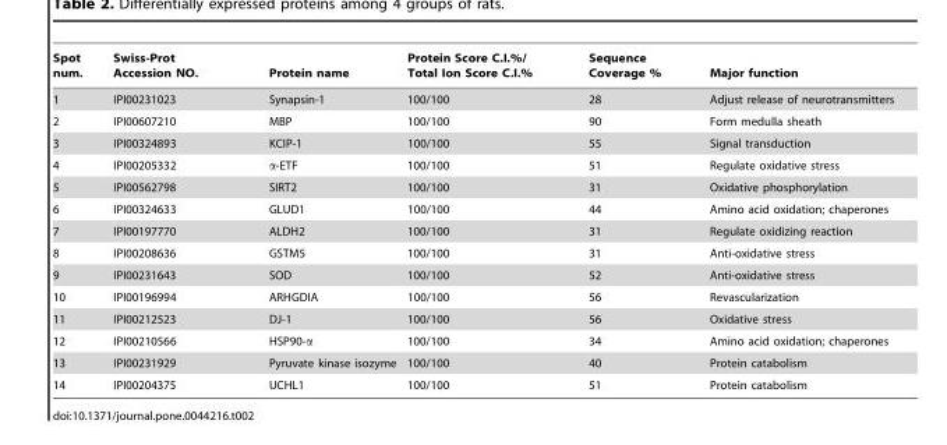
<table><thead><tr><td>Spot num.</td><td>Swiss-Prot Accession NO.</td><td>Protein name</td><td>Protein Score C.I.%/ Total Ion Score C.I.%</td><td>Sequence Coverage %</td><td>Major function</td></tr></thead><tbody><tr><td>1</td><td>IPI00231023</td><td>Synapsin-1</td><td>100/100</td><td>28</td><td>Adjust release of neurotransmitters</td></tr><tr><td>2</td><td>IPI00607210</td><td>MBP</td><td>100/100</td><td>90</td><td>Form medulla sheath</td></tr><tr><td>3</td><td>IPI00324893</td><td>KCIP-1</td><td>100/100</td><td>55</td><td>Signal transduction</td></tr><tr><td>4</td><td>IPI00205332</td><td>α-ETF</td><td>100/100</td><td>51</td><td>Regulate oxidative stress</td></tr><tr><td>5</td><td>IPI00562798</td><td>SIRT2</td><td>100/100</td><td>31</td><td>Oxidative phosphorylation</td></tr><tr><td>6</td><td>IPI00324633</td><td>GLUD1</td><td>100/100</td><td>44</td><td>Amino acid oxidation; chaperones</td></tr><tr><td>7</td><td>IPI00197770</td><td>ALDH2</td><td>100/100</td><td>31</td><td>Regulate oxidizing reaction</td></tr><tr><td>8</td><td>IPI00208636</td><td>GSTM5</td><td>100/100</td><td>31</td><td>Anti-oxidative stress</td></tr><tr><td>9</td><td>IPI00231643</td><td>SOD</td><td>100/100</td><td>52</td><td>Anti-oxidative stress</td></tr><tr><td>10</td><td>IPI00196994</td><td>ARHGDIA</td><td>100/100</td><td>56</td><td>Revascularization</td></tr><tr><td>11</td><td>IPI00212523</td><td>DJ-1</td><td>100/100</td><td>56</td><td>Oxidative stress</td></tr><tr><td>12</td><td>IPI00210566</td><td>HSP90-α</td><td>100/100</td><td>34</td><td>Amino acid oxidation; chaperones</td></tr><tr><td>13</td><td>IPI00231929</td><td>Pyruvate kinase isozyme</td><td>100/100</td><td>40</td><td>Protein catabolism</td></tr><tr><td>14</td><td>IPI00204375</td><td>UCHL1</td><td>100/100</td><td>51</td><td>Protein catabolism</td></tr></tbody></table>